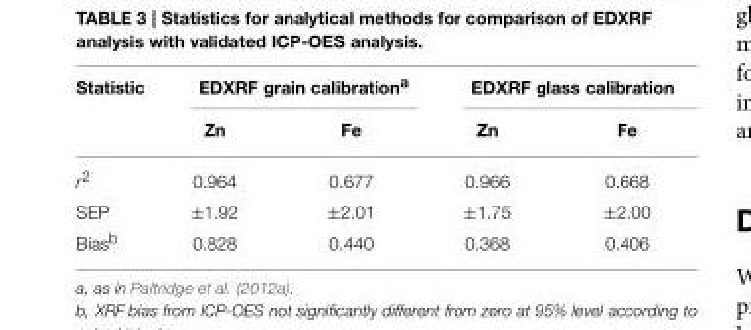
<table><thead><tr><td rowspan="2">Statistic</td><td colspan="2">EDXRF grain calibration<sup>a</sup></td><td colspan="2">EDXRF glass calibration</td></tr><tr><td>Zn</td><td>Fe</td><td>Zn</td><td>Fe</td></tr></thead><tbody><tr><td>r<sup>2</sup></td><td>0.964</td><td>0.677</td><td>0.966</td><td>0.668</td></tr><tr><td>SEP</td><td>±1.92</td><td>±2.01</td><td>±1.75</td><td>±2.00</td></tr><tr><td>Bias<sup>b</sup></td><td>0.828</td><td>0.440</td><td>0.368</td><td>0.406</td></tr></tbody></table>